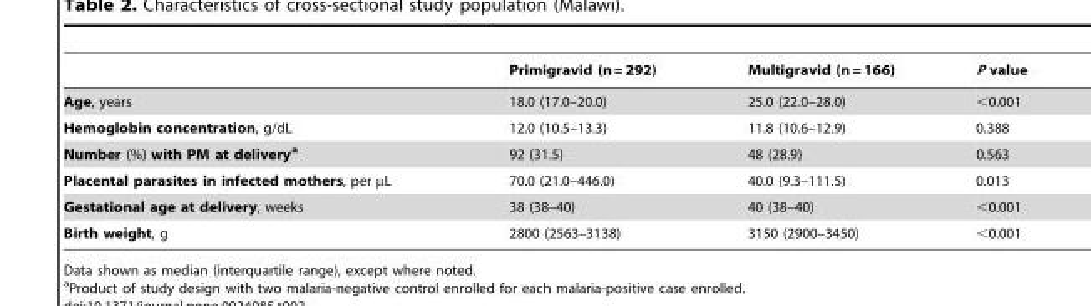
<table><thead><tr><td></td><td>Primigravid (n = 292)</td><td>Multigravid (n = 166)</td><td>P value</td></tr></thead><tbody><tr><td>Age, years</td><td>18.0 (17.0–20.0)</td><td>25.0 (22.0–28.0)</td><td>&lt;0.001</td></tr><tr><td>Hemoglobin concentration, g/dL</td><td>12.0 (10.5–13.3)</td><td>11.8 (10.6–12.9)</td><td>0.388</td></tr><tr><td>Number (%) with PM at deliverya</td><td>92 (31.5)</td><td>48 (28.9)</td><td>0.563</td></tr><tr><td>Placental parasites in infected mothers, per µL</td><td>70.0 (21.0–446.0)</td><td>40.0 (9.3–111.5)</td><td>0.013</td></tr><tr><td>Gestational age at delivery, weeks</td><td>38 (38–40)</td><td>40 (38–40)</td><td>&lt;0.001</td></tr><tr><td>Birth weight, g</td><td>2800 (2563–3138)</td><td>3150 (2900–3450)</td><td>&lt;0.001</td></tr></tbody></table>